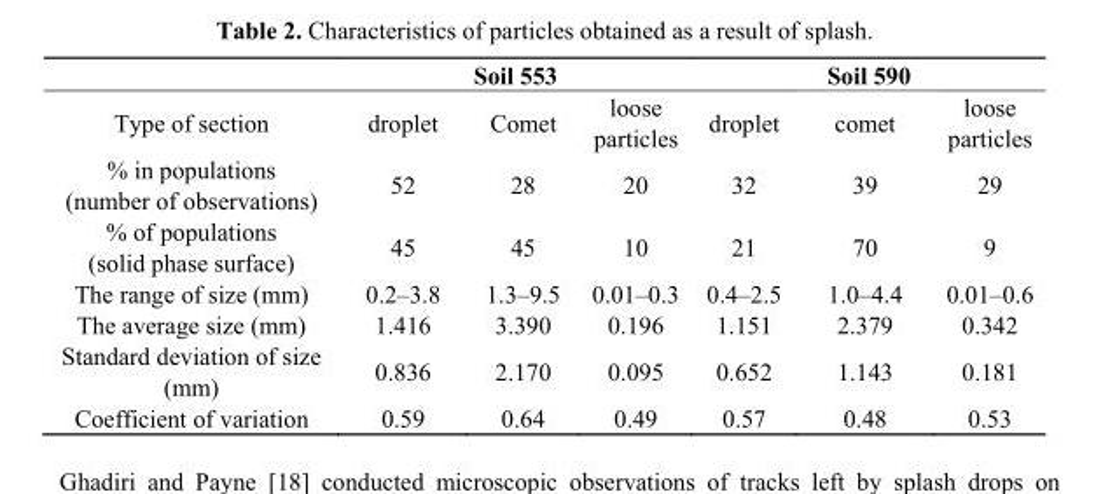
<table><thead><tr><td rowspan="2">Type of section</td><td colspan="3">Soil 553</td><td colspan="3">Soil 590</td></tr><tr><td>droplet</td><td>Comet</td><td>loose particles</td><td>droplet</td><td>comet</td><td>loose particles</td></tr></thead><tbody><tr><td>% in populations (number of observations)</td><td>52</td><td>28</td><td>20</td><td>32</td><td>39</td><td>29</td></tr><tr><td>% of populations (solid phase surface)</td><td>45</td><td>45</td><td>10</td><td>21</td><td>70</td><td>9</td></tr><tr><td>The range of size (mm)</td><td>0.2–3.8</td><td>1.3–9.5</td><td>0.01–0.3</td><td>0.4–2.5</td><td>1.0–4.4</td><td>0.01–0.6</td></tr><tr><td>The average size (mm)</td><td>1.416</td><td>3.390</td><td>0.196</td><td>1.151</td><td>2.379</td><td>0.342</td></tr><tr><td>Standard deviation of size (mm)</td><td>0.836</td><td>2.170</td><td>0.095</td><td>0.652</td><td>1.143</td><td>0.181</td></tr><tr><td>Coefficient of variation</td><td>0.59</td><td>0.64</td><td>0.49</td><td>0.57</td><td>0.48</td><td>0.53</td></tr></tbody></table>